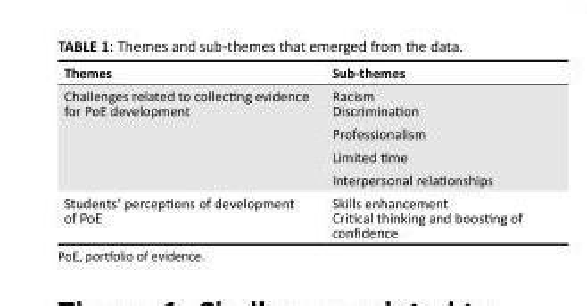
<table><thead><tr><td>Themes</td><td>Sub-themes</td></tr></thead><tbody><tr><td>Challenges related to collecting evidence for PoE development</td><td>Racism Discrimination Professionalism Limited time Interpersonal relationships</td></tr><tr><td>Students’ perceptions of development of PoE</td><td>Skills enhancement Critical thinking and boosting of confidence</td></tr></tbody></table>